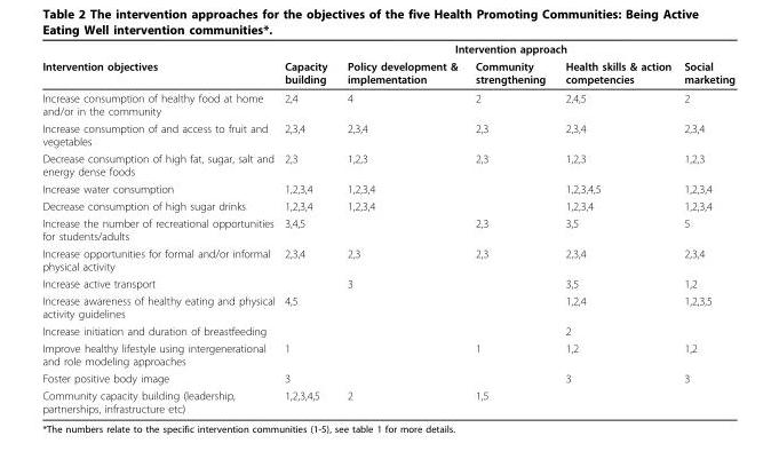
<table><thead><tr><td rowspan="2">Intervention objectives</td><td colspan="5">Intervention approach</td></tr><tr><td>Capacity building</td><td>Policy development &amp; implementation</td><td>Community strengthening</td><td>Health skills &amp; action competencies</td><td>Social marketing</td></tr></thead><tbody><tr><td>Increase consumption of healthy food at home and/or in the community</td><td>2,4</td><td>4</td><td>2</td><td>2,4,5</td><td>2</td></tr><tr><td>Increase consumption of and access to fruit and vegetables</td><td>2,3,4</td><td>2,3,4</td><td>2,3</td><td>2,3,4</td><td>2,3,4</td></tr><tr><td>Decrease consumption of high fat, sugar, salt and energy dense foods</td><td>2,3</td><td>1,2,3</td><td>2,3</td><td>1,2,3</td><td>1,2,3</td></tr><tr><td>Increase water consumption</td><td>1,2,3,4</td><td>1,2,3,4</td><td></td><td>1,2,3,4,5</td><td>1,2,3,4</td></tr><tr><td>Decrease consumption of high sugar drinks</td><td>1,2,3,4</td><td>1,2,3,4</td><td></td><td>1,2,3,4</td><td>1,2,3,4</td></tr><tr><td>Increase the number of recreational opportunities for students/adults</td><td>3,4,5</td><td></td><td>2,3</td><td>3,5</td><td>5</td></tr><tr><td>Increase opportunities for formal and/or informal physical activity</td><td>2,3,4</td><td>2,3</td><td>2,3</td><td>2,3,4</td><td>2,3,4</td></tr><tr><td>Increase active transport</td><td></td><td>3</td><td></td><td>3,5</td><td>1,2</td></tr><tr><td>Increase awareness of healthy eating and physical activity guidelines</td><td>4,5</td><td></td><td></td><td>1,2,4</td><td>1,2,3,5</td></tr><tr><td>Increase initiation and duration of breastfeeding</td><td></td><td></td><td></td><td>2</td><td></td></tr><tr><td>Improve healthy lifestyle using intergenerational and role modeling approaches</td><td>1</td><td></td><td>1</td><td>1,2</td><td>1,2</td></tr><tr><td>Foster positive body image</td><td>3</td><td></td><td></td><td>3</td><td>3</td></tr><tr><td>Community capacity building (leadership, partnerships, infrastructure etc)</td><td>1,2,3,4,5</td><td>2</td><td>1,5</td><td></td><td></td></tr></tbody></table>